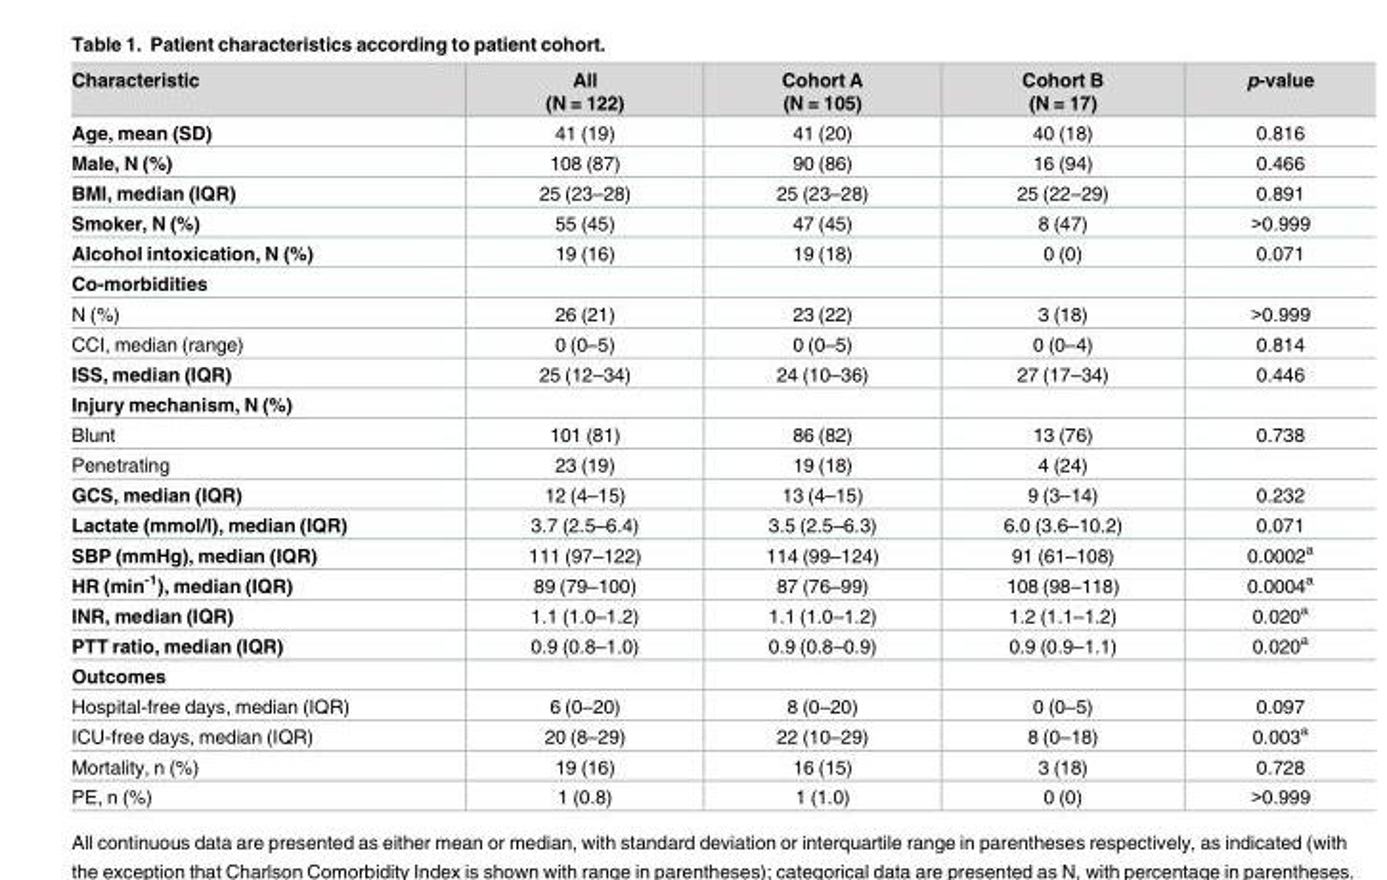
<table><thead><tr><td>Characteristic</td><td>All (N = 122)</td><td>Cohort A (N = 105)</td><td>Cohort B (N = 17)</td><td>p-value</td></tr></thead><tbody><tr><td>Age, mean (SD)</td><td>41 (19)</td><td>41 (20)</td><td>40 (18)</td><td>0.816</td></tr><tr><td>Male, N (%)</td><td>108 (87)</td><td>90 (86)</td><td>16 (94)</td><td>0.466</td></tr><tr><td>BMI, median (IQR)</td><td>25 (23–28)</td><td>25 (23–28)</td><td>25 (22–29)</td><td>0.891</td></tr><tr><td>Smoker, N (%)</td><td>55 (45)</td><td>47 (45)</td><td>8 (47)</td><td>&gt;0.999</td></tr><tr><td>Alcohol intoxication, N (%)</td><td>19 (16)</td><td>19 (18)</td><td>0 (0)</td><td>0.071</td></tr><tr><td colspan="5">Co-morbidities</td></tr><tr><td>N (%)</td><td>26 (21)</td><td>23 (22)</td><td>3 (18)</td><td>&gt;0.999</td></tr><tr><td>CCI, median (range)</td><td>0 (0–5)</td><td>0 (0–5)</td><td>0 (0–4)</td><td>0.814</td></tr><tr><td>ISS, median (IQR)</td><td>25 (12–34)</td><td>24 (10–36)</td><td>27 (17–34)</td><td>0.446</td></tr><tr><td colspan="5">Injury mechanism, N (%)</td></tr><tr><td>Blunt</td><td>101 (81)</td><td>86 (82)</td><td>13 (76)</td><td>0.738</td></tr><tr><td>Penetrating</td><td>23 (19)</td><td>19 (18)</td><td>4 (24)</td><td></td></tr><tr><td>GCS, median (IQR)</td><td>12 (4–15)</td><td>13 (4–15)</td><td>9 (3–14)</td><td>0.232</td></tr><tr><td>Lactate (mmol/l), median (IQR)</td><td>3.7 (2.5–6.4)</td><td>3.5 (2.5–6.3)</td><td>6.0 (3.6–10.2)</td><td>0.071</td></tr><tr><td>SBP (mmHg), median (IQR)</td><td>111 (97–122)</td><td>114 (99–124)</td><td>91 (61–108)</td><td>0.0002<sup>a</sup></td></tr><tr><td>HR (min<sup>-1</sup>), median (IQR)</td><td>89 (79–100)</td><td>87 (76–99)</td><td>108 (98–118)</td><td>0.0004<sup>a</sup></td></tr><tr><td>INR, median (IQR)</td><td>1.1 (1.0–1.2)</td><td>1.1 (1.0–1.2)</td><td>1.2 (1.1–1.2)</td><td>0.020<sup>a</sup></td></tr><tr><td>PTT ratio, median (IQR)</td><td>0.9 (0.8–1.0)</td><td>0.9 (0.8–0.9)</td><td>0.9 (0.9–1.1)</td><td>0.020<sup>a</sup></td></tr><tr><td colspan="5">Outcomes</td></tr><tr><td>Hospital-free days, median (IQR)</td><td>6 (0–20)</td><td>8 (0–20)</td><td>0 (0–5)</td><td>0.097</td></tr><tr><td>ICU-free days, median (IQR)</td><td>20 (8–29)</td><td>22 (10–29)</td><td>8 (0–18)</td><td>0.003<sup>a</sup></td></tr><tr><td>Mortality, n (%)</td><td>19 (16)</td><td>16 (15)</td><td>3 (18)</td><td>0.728</td></tr><tr><td>PE, n (%)</td><td>1 (0.8)</td><td>1 (1.0)</td><td>0 (0)</td><td>&gt;0.999</td></tr></tbody></table>